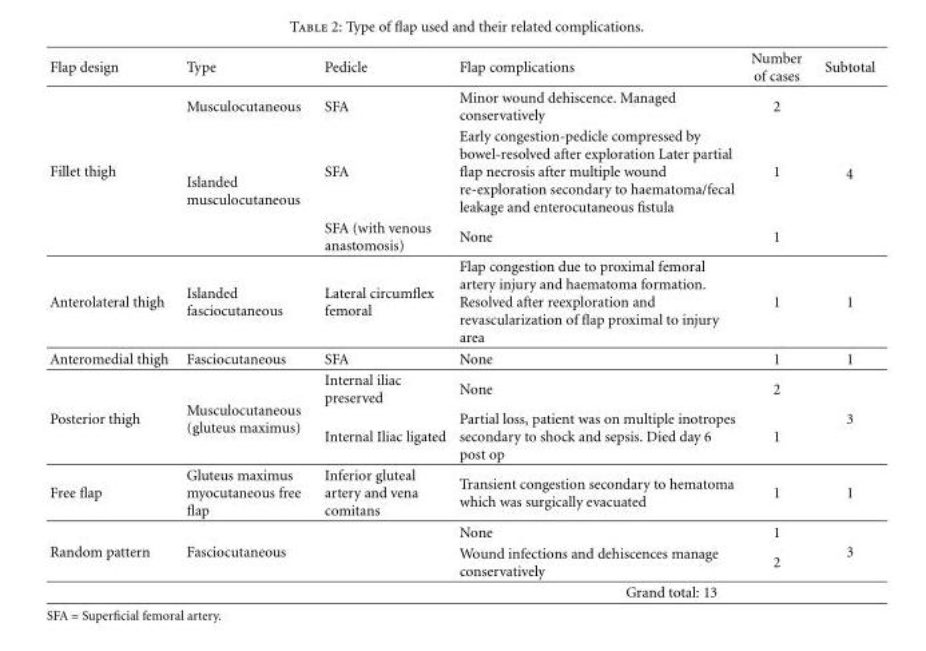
<table><thead><tr><td>Flap design</td><td>Type</td><td>Pedicle</td><td>Flap complications</td><td>Number of cases</td><td>Subtotal</td></tr></thead><tbody><tr><td rowspan="3">Fillet thigh</td><td>Musculocutaneous</td><td>SFA</td><td>Minor wound dehiscence. Managed conservatively</td><td>2</td><td></td></tr><tr><td rowspan="2">Islanded musculocutaneous</td><td>SFA</td><td>Early congestion-pedicle compressed by bowel-resolved after exploration Later partial flap necrosis after multiple wound re-exploration secondary to haematoma/fecal leakage and enterocutaneous fistula</td><td>1</td><td rowspan="2">4</td></tr><tr><td>SFA (with venous anastomosis)</td><td>None</td><td>1</td></tr><tr><td>Anterolateral thigh</td><td>Islanded fasciocutaneous</td><td>Lateral circumflex femoral</td><td>Flap congestion due to proximal femoral artery injury and haematoma formation. Resolved after reexploration and revascularization of flap proximal to injury area</td><td>1</td><td>1</td></tr><tr><td>Anteromedial thigh</td><td>Fasciocutaneous</td><td>SFA</td><td>None</td><td>1</td><td>1</td></tr><tr><td rowspan="2">Posterior thigh</td><td rowspan="2">Musculocutaneous (gluteus maximus)</td><td>Internal iliac preserved</td><td>None</td><td>2</td><td rowspan="2">3</td></tr><tr><td>Internal Iliac ligated</td><td>Partial loss, patient was on multiple inotropes secondary to shock and sepsis. Died day 6 post op</td><td>1</td></tr><tr><td>Free flap</td><td>Gluteus maximus myocutaneous free flap</td><td>Inferior gluteal artery and vena comitans</td><td>Transient congestion secondary to hematoma which was surgically evacuated</td><td>1</td><td>1</td></tr><tr><td rowspan="3">Random pattern</td><td rowspan="2">Fasciocutaneous</td><td rowspan="2"></td><td>None</td><td>1</td><td rowspan="2">3</td></tr><tr><td>Wound infections and dehiscences manage conservatively</td><td>2</td></tr><tr><td></td><td></td><td colspan="3">Grand total: 13</td></tr></tbody></table>